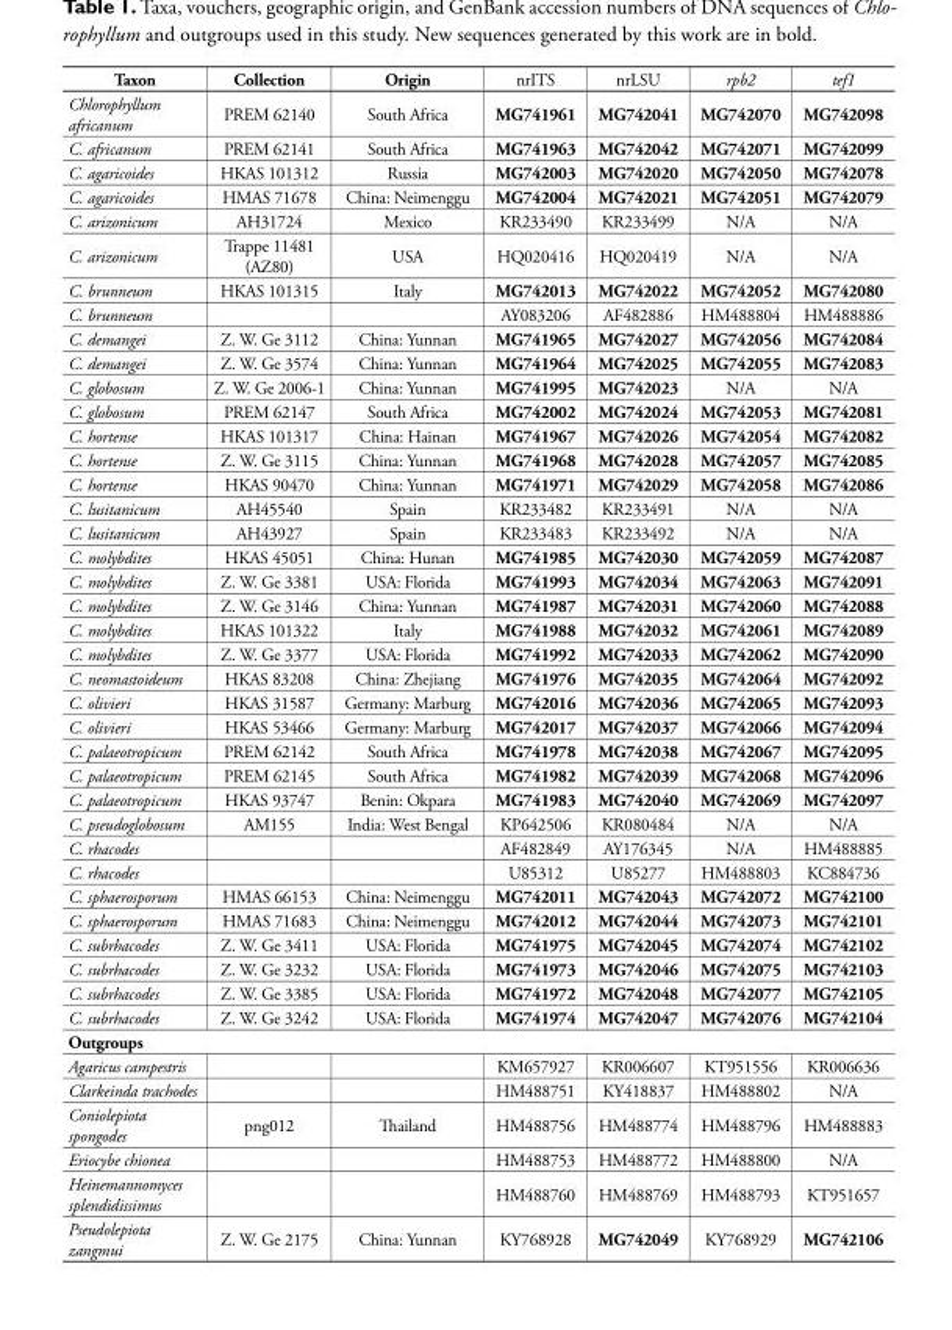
<table><thead><tr><td>Taxon</td><td>Collection</td><td>Origin</td><td>nrITS</td><td>nrLSU</td><td>rpb2</td><td>tef1</td></tr></thead><tbody><tr><td>Chlorophyllum africanum</td><td>PREM 62140</td><td>South Africa</td><td>MG741961</td><td>MG742041</td><td>MG742070</td><td>MG742098</td></tr><tr><td>C. africanum</td><td>PREM 62141</td><td>South Africa</td><td>MG741963</td><td>MG742042</td><td>MG742071</td><td>MG742099</td></tr><tr><td>C. agaricoides</td><td>HKAS 101312</td><td>Russia</td><td>MG742003</td><td>MG742020</td><td>MG742050</td><td>MG742078</td></tr><tr><td>C. agaricoides</td><td>HMAS 71678</td><td>China: Neimenggu</td><td>MG742004</td><td>MG742021</td><td>MG742051</td><td>MG742079</td></tr><tr><td>C. arizonicum</td><td>AH31724</td><td>Mexico</td><td>KR233490</td><td>KR233499</td><td>N/A</td><td>N/A</td></tr><tr><td>C. arizonicum</td><td>Trappe 11481 (AZ80)</td><td>USA</td><td>HQ020416</td><td>HQ020419</td><td>N/A</td><td>N/A</td></tr><tr><td>C. brunneum</td><td>HKAS 101315</td><td>Italy</td><td>MG742013</td><td>MG742022</td><td>MG742052</td><td>MG742080</td></tr><tr><td>C. brunneum</td><td></td><td></td><td>AY083206</td><td>AF482886</td><td>HM488804</td><td>HM488886</td></tr><tr><td>C. demangei</td><td>Z. W. Ge 3112</td><td>China: Yunnan</td><td>MG741965</td><td>MG742027</td><td>MG742056</td><td>MG742084</td></tr><tr><td>C. demangei</td><td>Z. W. Ge 3574</td><td>China: Yunnan</td><td>MG741964</td><td>MG742025</td><td>MG742055</td><td>MG742083</td></tr><tr><td>C. globosum</td><td>Z. W. Ge 2006-1</td><td>China: Yunnan</td><td>MG741995</td><td>MG742023</td><td>N/A</td><td>N/A</td></tr><tr><td>C. globosum</td><td>PREM 62147</td><td>South Africa</td><td>MG742002</td><td>MG742024</td><td>MG742053</td><td>MG742081</td></tr><tr><td>C. hortense</td><td>HKAS 101317</td><td>China: Hainan</td><td>MG741967</td><td>MG742026</td><td>MG742054</td><td>MG742082</td></tr><tr><td>C. hortense</td><td>Z. W. Ge 3115</td><td>China: Yunnan</td><td>MG741968</td><td>MG742028</td><td>MG742057</td><td>MG742085</td></tr><tr><td>C. hortense</td><td>HKAS 90470</td><td>China: Yunnan</td><td>MG741971</td><td>MG742029</td><td>MG742058</td><td>MG742086</td></tr><tr><td>C. lusitanicum</td><td>AH45540</td><td>Spain</td><td>KR233482</td><td>KR233491</td><td>N/A</td><td>N/A</td></tr><tr><td>C. lusitanicum</td><td>AH43927</td><td>Spain</td><td>KR233483</td><td>KR233492</td><td>N/A</td><td>N/A</td></tr><tr><td>C. molybdites</td><td>HKAS 45051</td><td>China: Hunan</td><td>MG741985</td><td>MG742030</td><td>MG742059</td><td>MG742087</td></tr><tr><td>C. molybdites</td><td>Z. W. Ge 3381</td><td>USA: Florida</td><td>MG741993</td><td>MG742034</td><td>MG742063</td><td>MG742091</td></tr><tr><td>C. molybdites</td><td>Z. W. Ge 3146</td><td>China: Yunnan</td><td>MG741987</td><td>MG742031</td><td>MG742060</td><td>MG742088</td></tr><tr><td>C. molybdites</td><td>HKAS 101322</td><td>Italy</td><td>MG741988</td><td>MG742032</td><td>MG742061</td><td>MG742089</td></tr><tr><td>C. molybdites</td><td>Z. W. Ge 3377</td><td>USA: Florida</td><td>MG741992</td><td>MG742033</td><td>MG742062</td><td>MG742090</td></tr><tr><td>C. neomastoideum</td><td>HKAS 83208</td><td>China: Zhejiang</td><td>MG741976</td><td>MG742035</td><td>MG742064</td><td>MG742092</td></tr><tr><td>C. olivieri</td><td>HKAS 31587</td><td>Germany: Marburg</td><td>MG742016</td><td>MG742036</td><td>MG742065</td><td>MG742093</td></tr><tr><td>C. olivieri</td><td>HKAS 53466</td><td>Germany: Marburg</td><td>MG742017</td><td>MG742037</td><td>MG742066</td><td>MG742094</td></tr><tr><td>C. palaeotropicum</td><td>PREM 62142</td><td>South Africa</td><td>MG741978</td><td>MG742038</td><td>MG742067</td><td>MG742095</td></tr><tr><td>C. palaeotropicum</td><td>PREM 62145</td><td>South Africa</td><td>MG741982</td><td>MG742039</td><td>MG742068</td><td>MG742096</td></tr><tr><td>C. palaeotropicum</td><td>HKAS 93747</td><td>Benin: Okpara</td><td>MG741983</td><td>MG742040</td><td>MG742069</td><td>MG742097</td></tr><tr><td>C. pseudoglobosum</td><td>AM155</td><td>India: West Bengal</td><td>KP642506</td><td>KR080484</td><td>N/A</td><td>N/A</td></tr><tr><td>C. rhacodes</td><td></td><td></td><td>AF482849</td><td>AY176345</td><td>N/A</td><td>HM488885</td></tr><tr><td>C. rhacodes</td><td></td><td></td><td>U85312</td><td>U85277</td><td>HM488803</td><td>KC884736</td></tr><tr><td>C. sphaerosporum</td><td>HMAS 66153</td><td>China: Neimenggu</td><td>MG742011</td><td>MG742043</td><td>MG742072</td><td>MG742100</td></tr><tr><td>C. sphaerosporum</td><td>HMAS 71683</td><td>China: Neimenggu</td><td>MG742012</td><td>MG742044</td><td>MG742073</td><td>MG742101</td></tr><tr><td>C. subrhacodes</td><td>Z. W. Ge 3411</td><td>USA: Florida</td><td>MG741975</td><td>MG742045</td><td>MG742074</td><td>MG742102</td></tr><tr><td>C. subrhacodes</td><td>Z. W. Ge 3232</td><td>USA: Florida</td><td>MG741973</td><td>MG742046</td><td>MG742075</td><td>MG742103</td></tr><tr><td>C. subrhacodes</td><td>Z. W. Ge 3385</td><td>USA: Florida</td><td>MG741972</td><td>MG742048</td><td>MG742077</td><td>MG742105</td></tr><tr><td>C. subrhacodes</td><td>Z. W. Ge 3242</td><td>USA: Florida</td><td>MG741974</td><td>MG742047</td><td>MG742076</td><td>MG742104</td></tr><tr><td colspan="7">Outgroups</td></tr><tr><td>Agaricus campestris</td><td></td><td></td><td>KM657927</td><td>KR006607</td><td>KT951556</td><td>KR006636</td></tr><tr><td>Clarkeinda trachodes</td><td></td><td></td><td>HM488751</td><td>KY418837</td><td>HM488802</td><td>N/A</td></tr><tr><td>Coniolepiota spongodes</td><td>png012</td><td>Thailand</td><td>HM488756</td><td>HM488774</td><td>HM488796</td><td>HM488883</td></tr><tr><td>Eriocybe chionea</td><td></td><td></td><td>HM488753</td><td>HM488772</td><td>HM488800</td><td>N/A</td></tr><tr><td>Heinemannomyces splendidissimus</td><td></td><td></td><td>HM488760</td><td>HM488769</td><td>HM488793</td><td>KT951657</td></tr><tr><td>Pseudolepiota zangmui</td><td>Z. W. Ge 2175</td><td>China: Yunnan</td><td>KY768928</td><td>MG742049</td><td>KY768929</td><td>MG742106</td></tr></tbody></table>